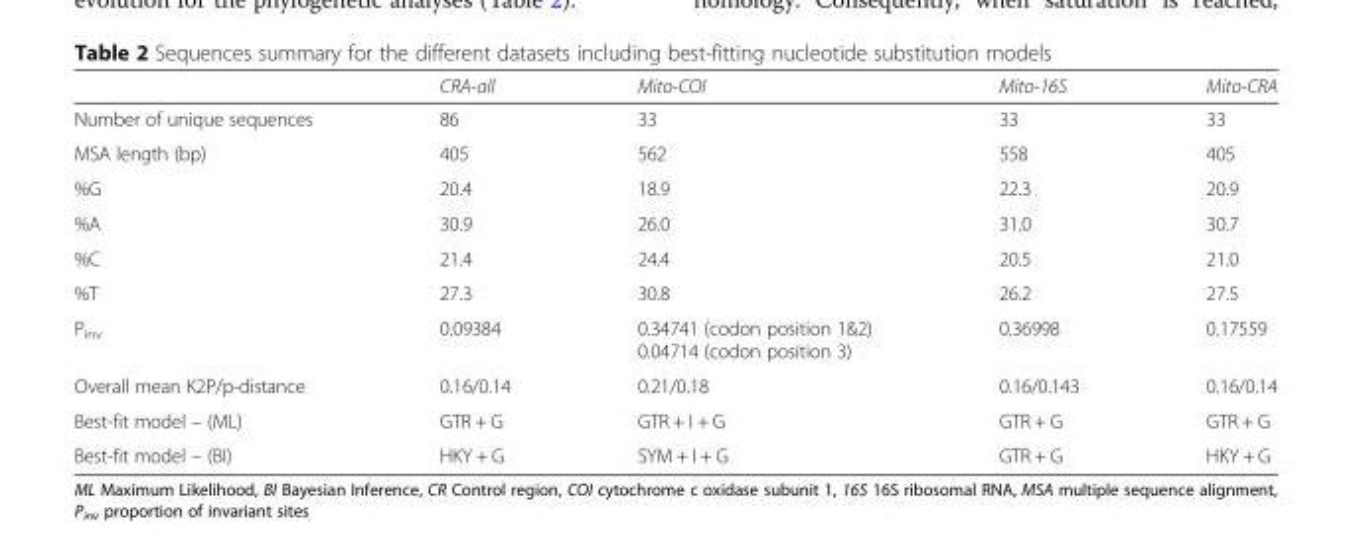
<table><thead><tr><td></td><td>CRA-all</td><td>Mito-COI</td><td>Mito-16S</td><td>Mito-CRA</td></tr></thead><tbody><tr><td>Number of unique sequences</td><td>86</td><td>33</td><td>33</td><td>33</td></tr><tr><td>MSA length (bp)</td><td>405</td><td>562</td><td>558</td><td>405</td></tr><tr><td>%G</td><td>20.4</td><td>18.9</td><td>22.3</td><td>20.9</td></tr><tr><td>%A</td><td>30.9</td><td>26.0</td><td>31.0</td><td>30.7</td></tr><tr><td>%C</td><td>21.4</td><td>24.4</td><td>20.5</td><td>21.0</td></tr><tr><td>%T</td><td>27.3</td><td>30.8</td><td>26.2</td><td>27.5</td></tr><tr><td>P<sub>inv</sub></td><td>0.09384</td><td>0.34741 (codon position 1&amp;2) 0.04714 (codon position 3)</td><td>0.36998</td><td>0.17559</td></tr><tr><td>Overall mean K2P/p-distance</td><td>0.16/0.14</td><td>0.21/0.18</td><td>0.16/0.143</td><td>0.16/0.14</td></tr><tr><td>Best-fit model – (ML)</td><td>GTR + G</td><td>GTR + I + G</td><td>GTR + G</td><td>GTR + G</td></tr><tr><td>Best-fit model – (BI)</td><td>HKY + G</td><td>SYM + I + G</td><td>GTR + G</td><td>HKY + G</td></tr></tbody></table>